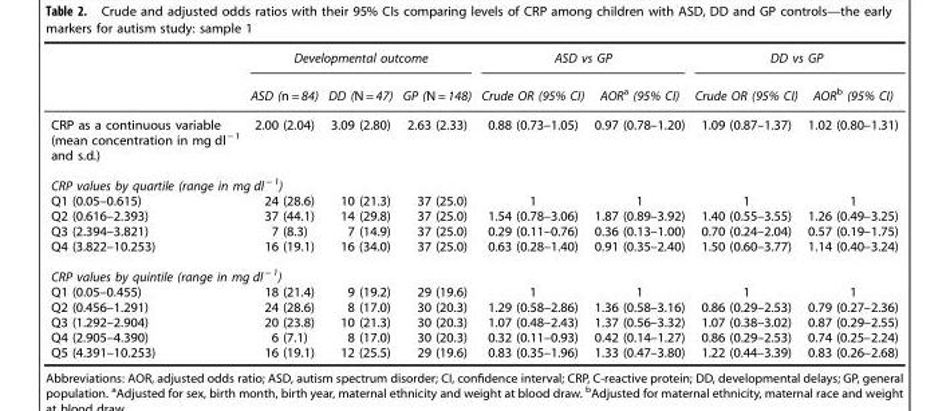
<table><thead><tr><td rowspan="2"></td><td colspan="3">Developmental outcome</td><td colspan="2">ASD vs GP</td><td colspan="2">DD vs GP</td></tr><tr><td>ASD (n = 84)</td><td>DD (N = 47)</td><td>GP (N = 148)</td><td>Crude OR (95% CI)</td><td>AOR<sup>a</sup> (95% CI)</td><td>Crude OR (95% CI)</td><td>AOR<sup>b</sup> (95% CI)</td></tr></thead><tbody><tr><td>CRP as a continuous variable (mean concentration in mg dl <sup>− 1</sup> and s.d.)</td><td>2.00 (2.04)</td><td>3.09 (2.80)</td><td>2.63 (2.33)</td><td>0.88 (0.73–1.05)</td><td>0.97 (0.78–1.20)</td><td>1.09 (0.87–1.37)</td><td>1.02 (0.80–1.31)</td></tr><tr><td colspan="8">CRP values by quartile (range in mg dl <sup>− 1</sup>)</td></tr><tr><td>Q1 (0.05–0.615)</td><td>24 (28.6)</td><td>10 (21.3)</td><td>37 (25.0)</td><td>1</td><td>1</td><td>1</td><td>1</td></tr><tr><td>Q2 (0.616–2.393)</td><td>37 (44.1)</td><td>14 (29.8)</td><td>37 (25.0)</td><td>1.54 (0.78–3.06)</td><td>1.87 (0.89–3.92)</td><td>1.40 (0.55–3.55)</td><td>1.26 (0.49–3.25)</td></tr><tr><td>Q3 (2.394–3.821)</td><td>7 (8.3)</td><td>7 (14.9)</td><td>37 (25.0)</td><td>0.29 (0.11–0.76)</td><td>0.36 (0.13–1.00)</td><td>0.70 (0.24–2.04)</td><td>0.57 (0.19–1.75)</td></tr><tr><td>Q4 (3.822–10.253)</td><td>16 (19.1)</td><td>16 (34.0)</td><td>37 (25.0)</td><td>0.63 (0.28–1.40)</td><td>0.91 (0.35–2.40)</td><td>1.50 (0.60–3.77)</td><td>1.14 (0.40–3.24)</td></tr><tr><td colspan="8">CRP values by quintile (range in mg dl <sup>− 1</sup>)</td></tr><tr><td>Q1 (0.05–0.455)</td><td>18 (21.4)</td><td>9 (19.2)</td><td>29 (19.6)</td><td>1</td><td>1</td><td>1</td><td>1</td></tr><tr><td>Q2 (0.456–1.291)</td><td>24 (28.6)</td><td>8 (17.0)</td><td>30 (20.3)</td><td>1.29 (0.58–2.86)</td><td>1.36 (0.58–3.16)</td><td>0.86 (0.29–2.53)</td><td>0.79 (0.27–2.36)</td></tr><tr><td>Q3 (1.292–2.904)</td><td>20 (23.8)</td><td>10 (21.3)</td><td>30 (20.3)</td><td>1.07 (0.48–2.43)</td><td>1.37 (0.56–3.32)</td><td>1.07 (0.38–3.02)</td><td>0.87 (0.29–2.55)</td></tr><tr><td>Q4 (2.905–4.390)</td><td>6 (7.1)</td><td>8 (17.0)</td><td>30 (20.3)</td><td>0.32 (0.11–0.93)</td><td>0.42 (0.14–1.27)</td><td>0.86 (0.29–2.53)</td><td>0.74 (0.25–2.24)</td></tr><tr><td>Q5 (4.391–10.253)</td><td>16 (19.1)</td><td>12 (25.5)</td><td>29 (19.6)</td><td>0.83 (0.35–1.96)</td><td>1.33 (0.47–3.80)</td><td>1.22 (0.44–3.39)</td><td>0.83 (0.26–2.68)</td></tr></tbody></table>